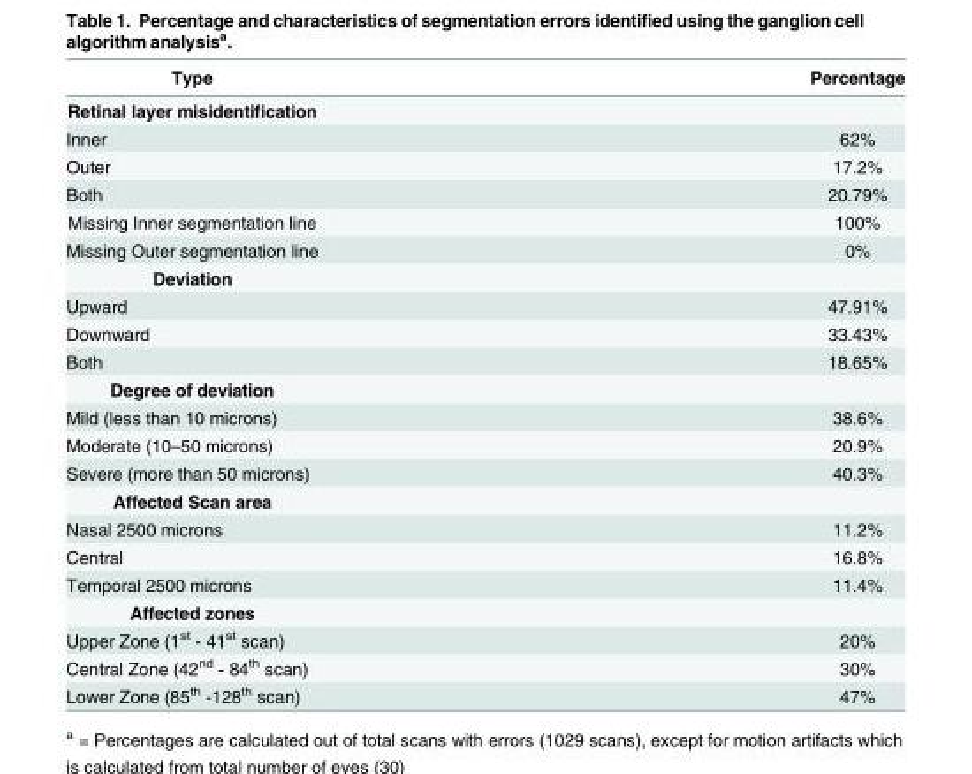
<table><thead><tr><td>Type</td><td>Percentage</td></tr></thead><tbody><tr><td colspan="2">Retinal layer misidentification</td></tr><tr><td>Inner</td><td>62%</td></tr><tr><td>Outer</td><td>17.2%</td></tr><tr><td>Both</td><td>20.79%</td></tr><tr><td>Missing Inner segmentation line</td><td>100%</td></tr><tr><td>Missing Outer segmentation line</td><td>0%</td></tr><tr><td colspan="2">Deviation</td></tr><tr><td>Upward</td><td>47.91%</td></tr><tr><td>Downward</td><td>33.43%</td></tr><tr><td>Both</td><td>18.65%</td></tr><tr><td colspan="2">Degree of deviation</td></tr><tr><td>Mild (less than 10 microns)</td><td>38.6%</td></tr><tr><td>Moderate (10–50 microns)</td><td>20.9%</td></tr><tr><td>Severe (more than 50 microns)</td><td>40.3%</td></tr><tr><td colspan="2">Affected Scan area</td></tr><tr><td>Nasal 2500 microns</td><td>11.2%</td></tr><tr><td>Central</td><td>16.8%</td></tr><tr><td>Temporal 2500 microns</td><td>11.4%</td></tr><tr><td colspan="2">Affected zones</td></tr><tr><td>Upper Zone (1<sup>st</sup> - 41<sup>st</sup> scan)</td><td>20%</td></tr><tr><td>Central Zone (42<sup>nd</sup> - 84<sup>th</sup> scan)</td><td>30%</td></tr><tr><td>Lower Zone (85<sup>th</sup> -128<sup>th</sup> scan)</td><td>47%</td></tr></tbody></table>